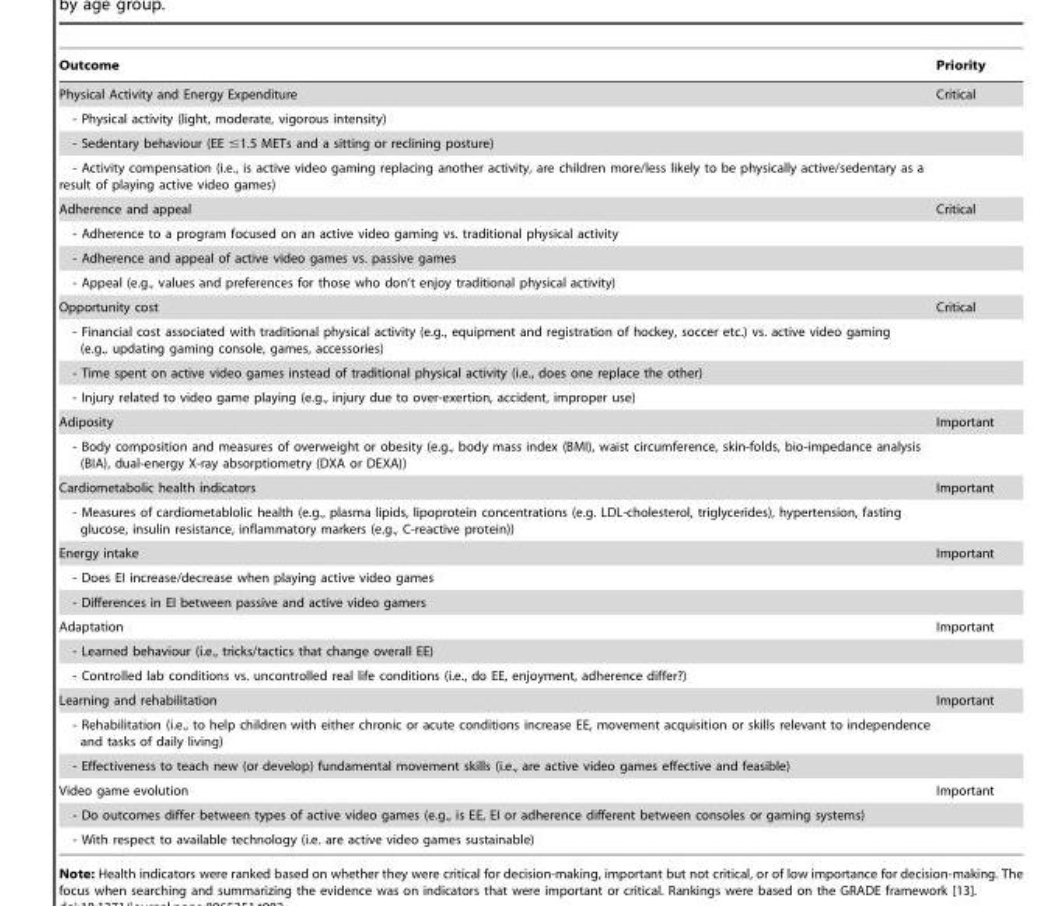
<table><thead><tr><td>Outcome</td><td>Priority</td></tr></thead><tbody><tr><td>Physical Activity and Energy Expenditure</td><td>Critical</td></tr><tr><td colspan="2">- Physical activity (light, moderate, vigorous intensity)</td></tr><tr><td colspan="2">- Sedentary behaviour (EE ≤1.5 METs and a sitting or reclining posture)</td></tr><tr><td colspan="2">- Activity compensation (i.e., is active video gaming replacing another activity, are children more/less likely to be physically active/sedentary as a result of playing active video games)</td></tr><tr><td>Adherence and appeal</td><td>Critical</td></tr><tr><td colspan="2">- Adherence to a program focused on an active video gaming vs. traditional physical activity</td></tr><tr><td colspan="2">- Adherence and appeal of active video games vs. passive games</td></tr><tr><td colspan="2">- Appeal (e.g., values and preferences for those who don’t enjoy traditional physical activity)</td></tr><tr><td>Opportunity cost</td><td>Critical</td></tr><tr><td colspan="2">- Financial cost associated with traditional physical activity (e.g., equipment and registration of hockey, soccer etc.) vs. active video gaming (e.g., updating gaming console, games, accessories)</td></tr><tr><td colspan="2">- Time spent on active video games instead of traditional physical activity (i.e., does one replace the other)</td></tr><tr><td colspan="2">- Injury related to video game playing (e.g., injury due to over-exertion, accident, improper use)</td></tr><tr><td>Adiposity</td><td>Important</td></tr><tr><td colspan="2">- Body composition and measures of overweight or obesity (e.g., body mass index (BMI), waist circumference, skin-folds, bio-impedance analysis (BIA), dual-energy X-ray absorptiometry (DXA or DEXA))</td></tr><tr><td>Cardiometabolic health indicators</td><td>Important</td></tr><tr><td colspan="2">- Measures of cardiometablolic health (e.g., plasma lipids, lipoprotein concentrations (e.g. LDL-cholesterol, triglycerides), hypertension, fasting glucose, insulin resistance, inflammatory markers (e.g., C-reactive protein))</td></tr><tr><td>Energy intake</td><td>Important</td></tr><tr><td colspan="2">- Does EI increase/decrease when playing active video games</td></tr><tr><td colspan="2">- Differences in EI between passive and active video gamers</td></tr><tr><td>Adaptation</td><td>Important</td></tr><tr><td colspan="2">- Learned behaviour (i.e., tricks/tactics that change overall EE)</td></tr><tr><td colspan="2">- Controlled lab conditions vs. uncontrolled real life conditions (i.e., do EE, enjoyment, adherence differ?)</td></tr><tr><td>Learning and rehabilitation</td><td>Important</td></tr><tr><td colspan="2">- Rehabilitation (i.e., to help children with either chronic or acute conditions increase EE, movement acquisition or skills relevant to independence and tasks of daily living)</td></tr><tr><td colspan="2">- Effectiveness to teach new (or develop) fundamental movement skills (i.e., are active video games effective and feasible)</td></tr><tr><td>Video game evolution</td><td>Important</td></tr><tr><td colspan="2">- Do outcomes differ between types of active video games (e.g., is EE, EI or adherence different between consoles or gaming systems)</td></tr><tr><td>- With respect to available technology (i.e. are active video games sustainable)</td><td></td></tr></tbody></table>